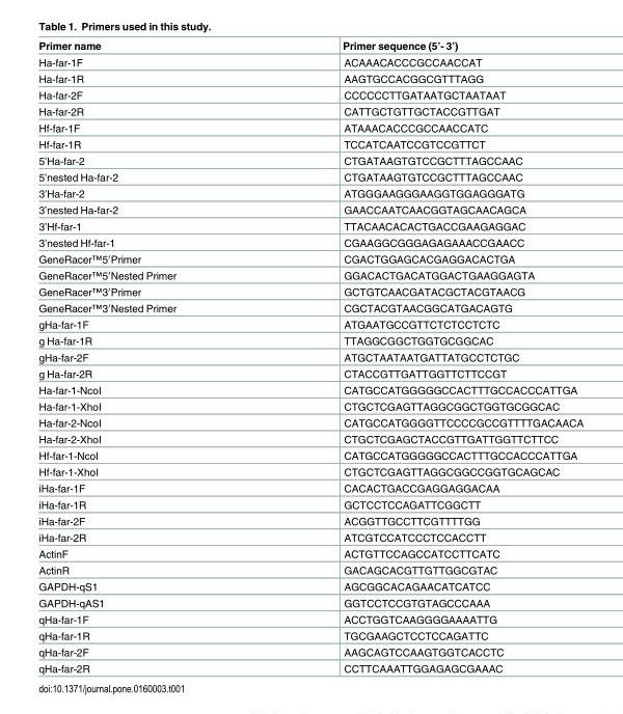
<table><thead><tr><td>Primer name</td><td>Primer sequence (5’- 3’)</td></tr></thead><tbody><tr><td>Ha-far-1F</td><td>ACAAACACCCGCCAACCAT</td></tr><tr><td>Ha-far-1R</td><td>AAGTGCCACGGCGTTTAGG</td></tr><tr><td>Ha-far-2F</td><td>CCCCCCTTGATAATGCTAATAAT</td></tr><tr><td>Ha-far-2R</td><td>CATTGCTGTTGCTACCGTTGAT</td></tr><tr><td>Hf-far-1F</td><td>ATAAACACCCGCCAACCATC</td></tr><tr><td>Hf-far-1R</td><td>TCCATCAATCCGTCCGTTCT</td></tr><tr><td>5’Ha-far-2</td><td>CTGATAAGTGTCCGCTTTAGCCAAC</td></tr><tr><td>5’nested Ha-far-2</td><td>CTGATAAGTGTCCGCTTTAGCCAAC</td></tr><tr><td>3’Ha-far-2</td><td>ATGGGAAGGGAAGGTGGAGGGATG</td></tr><tr><td>3’nested Ha-far-2</td><td>GAACCAATCAACGGTAGCAACAGCA</td></tr><tr><td>3’Hf-far-1</td><td>TTACAACACACTGACCGAAGAGGAC</td></tr><tr><td>3’nested Hf-far-1</td><td>CGAAGGCGGGAGAGAAACCGAACC</td></tr><tr><td>GeneRacer™5′Primer</td><td>CGACTGGAGCACGAGGACACTGA</td></tr><tr><td>GeneRacer™5′Nested Primer</td><td>GGACACTGACATGGACTGAAGGAGTA</td></tr><tr><td>GeneRacer™3′Primer</td><td>GCTGTCAACGATACGCTACGTAACG</td></tr><tr><td>GeneRacer™3′Nested Primer</td><td>CGCTACGTAACGGCATGACAGTG</td></tr><tr><td>gHa-far-1F</td><td>ATGAATGCCGTTCTCTCCTCTC</td></tr><tr><td>g Ha-far-1R</td><td>TTAGGCGGCTGGTGCGGCAC</td></tr><tr><td>gHa-far-2F</td><td>ATGCTAATAATGATTATGCCTCTGC</td></tr><tr><td>g Ha-far-2R</td><td>CTACCGTTGATTGGTTCTTCCGT</td></tr><tr><td>Ha-far-1-NcoI</td><td>CATGCCATGGGGGCCACTTTGCCACCCATTGA</td></tr><tr><td>Ha-far-1-XhoI</td><td>CTGCTCGAGTTAGGCGGCTGGTGCGGCAC</td></tr><tr><td>Ha-far-2-NcoI</td><td>CATGCCATGGGGTTCCCCGCCGTTTTGACAACA</td></tr><tr><td>Ha-far-2-XhoI</td><td>CTGCTCGAGCTACCGTTGATTGGTTCTTCC</td></tr><tr><td>Hf-far-1-NcoI</td><td>CATGCCATGGGGGCCACTTTGCCACCCATTGA</td></tr><tr><td>Hf-far-1-XhoI</td><td>CTGCTCGAGTTAGGCGGCCGGTGCAGCAC</td></tr><tr><td>iHa-far-1F</td><td>CACACTGACCGAGGAGGACAA</td></tr><tr><td>iHa-far-1R</td><td>GCTCCTCCAGATTCGGCTT</td></tr><tr><td>iHa-far-2F</td><td>ACGGTTGCCTTCGTTTTGG</td></tr><tr><td>iHa-far-2R</td><td>ATCGTCCATCCCTCCACCTT</td></tr><tr><td>ActinF</td><td>ACTGTTCCAGCCATCCTTCATC</td></tr><tr><td>ActinR</td><td>GACAGCACGTTGTTGGCGTAC</td></tr><tr><td>GAPDH-qS1</td><td>AGCGGCACAGAACATCATCC</td></tr><tr><td>GAPDH-qAS1</td><td>GGTCCTCCGTGTAGCCCAAA</td></tr><tr><td>qHa-far-1F</td><td>ACCTGGTCAAGGGGAAAATTG</td></tr><tr><td>qHa-far-1R</td><td>TGCGAAGCTCCTCCAGATTC</td></tr><tr><td>qHa-far-2F</td><td>AAGCAGTCCAAGTGGTCACCTC</td></tr><tr><td>qHa-far-2R</td><td>CCTTCAAATTGGAGAGCGAAAC</td></tr></tbody></table>